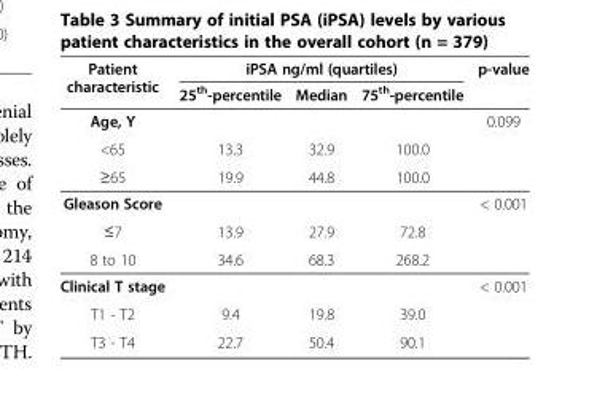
<table><thead><tr><td rowspan="2">Patient characteristic</td><td colspan="3">iPSA ng/ml (quartiles)</td><td rowspan="2">p-value</td></tr><tr><td>25<sup>th</sup>-percentile</td><td>Median</td><td>75<sup>th</sup>-percentile</td></tr></thead><tbody><tr><td>Age, Y</td><td></td><td></td><td></td><td>0.099</td></tr><tr><td>&lt;65</td><td>13.3</td><td>32.9</td><td>100.0</td><td></td></tr><tr><td>≥65</td><td>19.9</td><td>44.8</td><td>100.0</td><td></td></tr><tr><td>Gleason Score</td><td></td><td></td><td></td><td>&lt; 0.001</td></tr><tr><td>≤7</td><td>13.9</td><td>27.9</td><td>72.8</td><td></td></tr><tr><td>8 to 10</td><td>34.6</td><td>68.3</td><td>268.2</td><td></td></tr><tr><td>Clinical T stage</td><td></td><td></td><td></td><td>&lt; 0.001</td></tr><tr><td>T1 - T2</td><td>9.4</td><td>19.8</td><td>39.0</td><td></td></tr><tr><td>T3 - T4</td><td>22.7</td><td>50.4</td><td>90.1</td><td></td></tr></tbody></table>